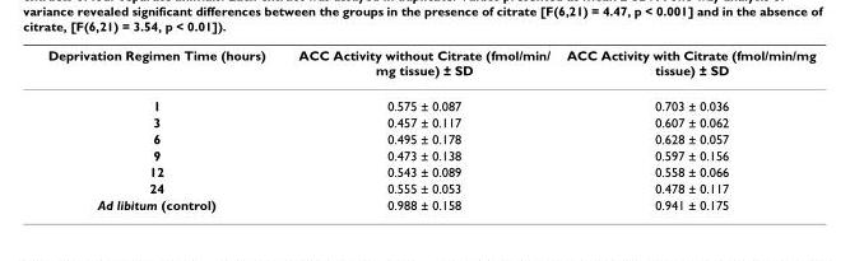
<table><thead><tr><td>Deprivation Regimen Time (hours)</td><td>ACC Activity without Citrate (fmol/min/ mg tissue) ± SD</td><td>ACC Activity with Citrate (fmol/min/mg tissue) ± SD</td></tr></thead><tbody><tr><td>1</td><td>0.575 ± 0.087</td><td>0.703 ± 0.036</td></tr><tr><td>3</td><td>0.457 ± 0.117</td><td>0.607 ± 0.062</td></tr><tr><td>6</td><td>0.495 ± 0.178</td><td>0.628 ± 0.057</td></tr><tr><td>9</td><td>0.473 ± 0.138</td><td>0.597 ± 0.156</td></tr><tr><td>12</td><td>0.543 ± 0.089</td><td>0.558 ± 0.066</td></tr><tr><td>24</td><td>0.555 ± 0.053</td><td>0.478 ± 0.117</td></tr><tr><td>Ad libitum (control)</td><td>0.988 ± 0.158</td><td>0.941 ± 0.175</td></tr></tbody></table>